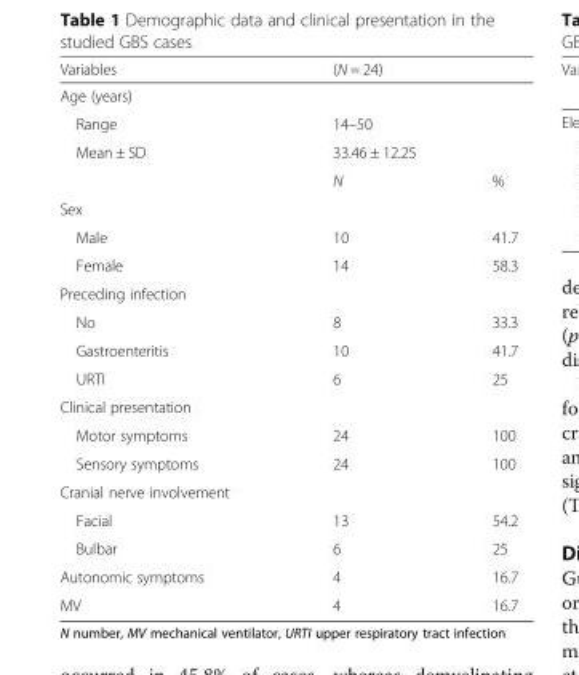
<table><thead><tr><td>Variables</td><td colspan="2">(N = 24)</td></tr></thead><tbody><tr><td colspan="3">Age (years)</td></tr><tr><td>Range</td><td colspan="2">14–50</td></tr><tr><td rowspan="2">Mean ± SD</td><td colspan="2">33.46 ± 12.25</td></tr><tr><td>N</td><td>%</td></tr><tr><td colspan="3">Sex</td></tr><tr><td>Male</td><td>10</td><td>41.7</td></tr><tr><td>Female</td><td>14</td><td>58.3</td></tr><tr><td colspan="3">Preceding infection</td></tr><tr><td>No</td><td>8</td><td>33.3</td></tr><tr><td>Gastroenteritis</td><td>10</td><td>41.7</td></tr><tr><td>URTI</td><td>6</td><td>25</td></tr><tr><td colspan="3">Clinical presentation</td></tr><tr><td>Motor symptoms</td><td>24</td><td>100</td></tr><tr><td>Sensory symptoms</td><td>24</td><td>100</td></tr><tr><td colspan="3">Cranial nerve involvement</td></tr><tr><td>Facial</td><td>13</td><td>54.2</td></tr><tr><td>Bulbar</td><td>6</td><td>25</td></tr><tr><td>Autonomic symptoms</td><td>4</td><td>16.7</td></tr><tr><td>MV</td><td>4</td><td>16.7</td></tr></tbody></table>